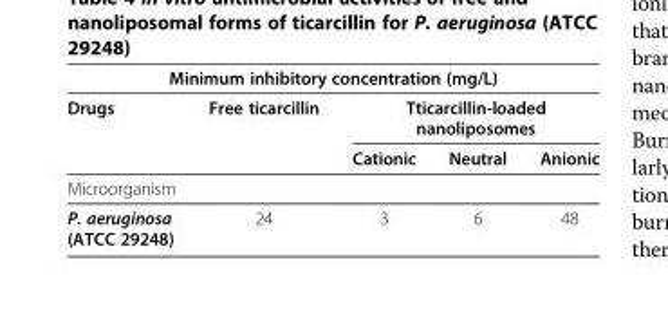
<table><thead><tr><td colspan="5">Minimum inhibitory concentration (mg/L)</td></tr><tr><td rowspan="2">Drugs</td><td rowspan="2">Free ticarcillin</td><td colspan="3">Tticarcillin-loaded nanoliposomes</td></tr><tr><td>Cationic</td><td>Neutral</td><td>Anionic</td></tr></thead><tbody><tr><td colspan="5">Microorganism</td></tr><tr><td>P. aeruginosa (ATCC 29248)</td><td>24</td><td>3</td><td>6</td><td>48</td></tr></tbody></table>